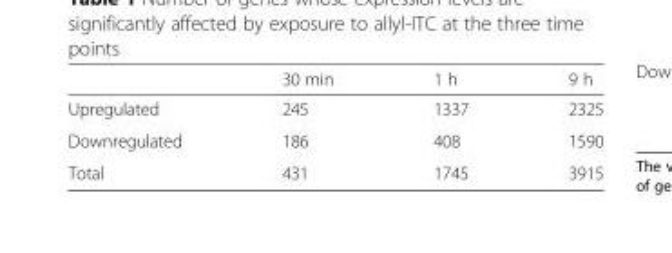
<table><thead><tr><td></td><td>30 min</td><td>1 h</td><td>9 h</td></tr></thead><tbody><tr><td>Upregulated</td><td>245</td><td>1337</td><td>2325</td></tr><tr><td>Downregulated</td><td>186</td><td>408</td><td>1590</td></tr><tr><td>Total</td><td>431</td><td>1745</td><td>3915</td></tr></tbody></table>